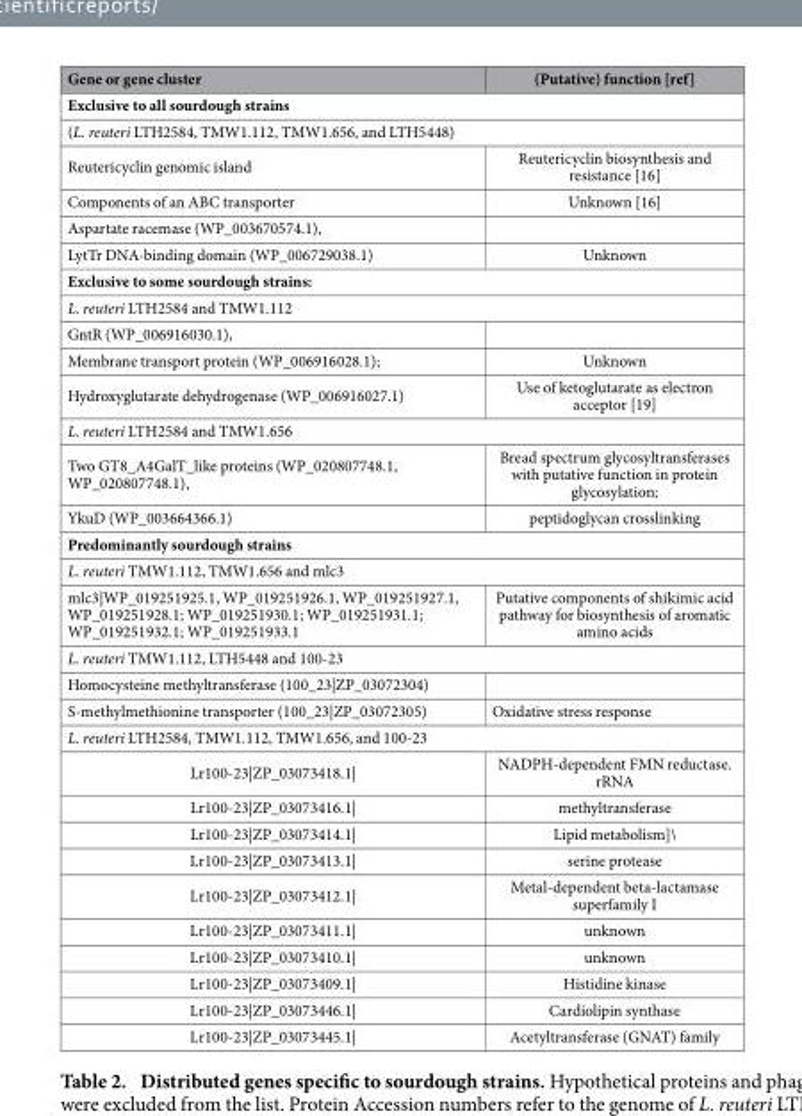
<table><thead><tr><td>Gene or gene cluster</td><td>(Putative) function [ref]</td></tr></thead><tbody><tr><td colspan="2">Exclusive to all sourdough strains</td></tr><tr><td colspan="2">(L. reuteri LTH2584, TMW1.112, TMW1.656, and LTH5448)</td></tr><tr><td>Reutericyclin genomic island</td><td>Reutericyclin biosynthesis and resistance [16]</td></tr><tr><td>Components of an ABC transporter</td><td>Unknown [16]</td></tr><tr><td colspan="2">Aspartate racemase (WP_003670574.1),</td></tr><tr><td>LytTr DNA-binding domain (WP_006729038.1)</td><td>Unknown</td></tr><tr><td colspan="2">Exclusive to some sourdough strains:</td></tr><tr><td colspan="2">L. reuteri LTH2584 and TMW1.112</td></tr><tr><td colspan="2">GntR (WP_006916030.1),</td></tr><tr><td>Membrane transport protein (WP_006916028.1);</td><td>Unknown</td></tr><tr><td>Hydroxyglutarate dehydrogenase (WP_006916027.1)</td><td>Use of ketoglutarate as electron acceptor [19]</td></tr><tr><td colspan="2">L. reuteri LTH2584 and TMW1.656</td></tr><tr><td>Two GT8_A4GalT_like proteins (WP_020807748.1, WP_020807748.1),</td><td>Bread spectrum glycosyltransferases with putative function in protein glycosylation;</td></tr><tr><td>YkuD (WP_003664366.1)</td><td>peptidoglycan crosslinking</td></tr><tr><td colspan="2">Predominantly sourdough strains</td></tr><tr><td colspan="2">L. reuteri TMW1.112, TMW1.656 and mlc3</td></tr><tr><td>mlc3|WP_019251925.1, WP_019251926.1, WP_019251927.1, WP_019251928.1; WP_019251930.1; WP_019251931.1; WP_019251932.1; WP_019251933.1</td><td>Putative components of shikimic acid pathway for biosynthesis of aromatic amino acids</td></tr><tr><td colspan="2">L. reuteri TMW1.112, LTH5448 and 100-23</td></tr><tr><td colspan="2">Homocysteine methyltransferase (100_23|ZP_03072304)</td></tr><tr><td>S-methylmethionine transporter (100_23|ZP_03072305)</td><td>Oxidative stress response</td></tr><tr><td colspan="2">L. reuteri LTH2584, TMW1.112, TMW1.656, and 100-23</td></tr><tr><td>Lr100-23|ZP_03073418.1|</td><td>NADPH-dependent FMN reductase. rRNA</td></tr><tr><td>Lr100-23|ZP_03073416.1|</td><td>methyltransferase</td></tr><tr><td>Lr100-23|ZP_03073414.1|</td><td>Lipid metabolism]\</td></tr><tr><td>Lr100-23|ZP_03073413.1|</td><td>serine protease</td></tr><tr><td>Lr100-23|ZP_03073412.1|</td><td>Metal-dependent beta-lactamase superfamily I</td></tr><tr><td>Lr100-23|ZP_03073411.1|</td><td>unknown</td></tr><tr><td>Lr100-23|ZP_03073410.1|</td><td>unknown</td></tr><tr><td>Lr100-23|ZP_03073409.1|</td><td>Histidine kinase</td></tr><tr><td>Lr100-23|ZP_03073446.1|</td><td>Cardiolipin synthase</td></tr><tr><td>Lr100-23|ZP_03073445.1|</td><td>Acetyltransferase (GNAT) family</td></tr></tbody></table>